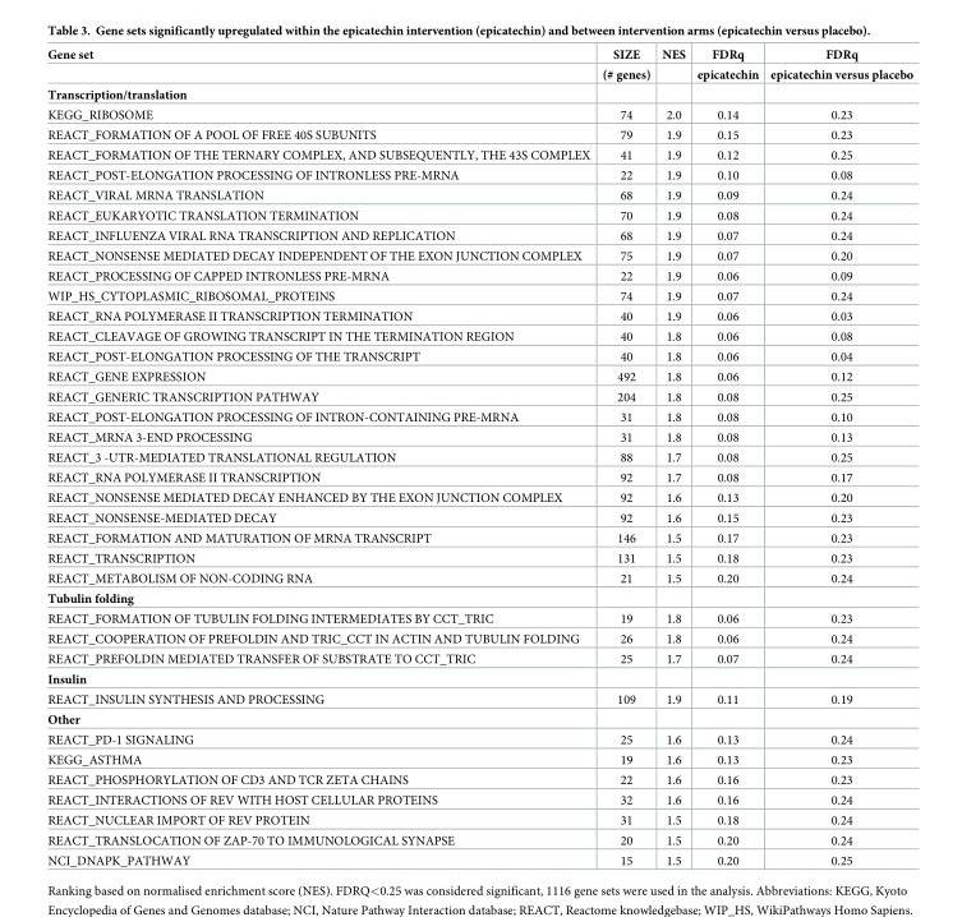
<table><thead><tr><td rowspan="2">Gene set</td><td rowspan="2">SIZE (# genes)</td><td rowspan="2">NES</td><td rowspan="2">FDRq epicatechin</td><td rowspan="2">FDRq epicatechin versus placebo</td></tr><tr></tr></thead><tbody><tr><td colspan="5">Transcription/translation</td></tr><tr><td>KEGG_RIBOSOME</td><td>74</td><td>2.0</td><td>0.14</td><td>0.23</td></tr><tr><td>REACT_FORMATION OF A POOL OF FREE 40S SUBUNITS</td><td>79</td><td>1.9</td><td>0.15</td><td>0.23</td></tr><tr><td>REACT_FORMATION OF THE TERNARY COMPLEX, AND SUBSEQUENTLY, THE 43S COMPLEX</td><td>41</td><td>1.9</td><td>0.12</td><td>0.25</td></tr><tr><td>REACT_POST-ELONGATION PROCESSING OF INTRONLESS PRE-MRNA</td><td>22</td><td>1.9</td><td>0.10</td><td>0.08</td></tr><tr><td>REACT_VIRAL MRNA TRANSLATION</td><td>68</td><td>1.9</td><td>0.09</td><td>0.24</td></tr><tr><td>REACT_EUKARYOTIC TRANSLATION TERMINATION</td><td>70</td><td>1.9</td><td>0.08</td><td>0.24</td></tr><tr><td>REACT_INFLUENZA VIRAL RNA TRANSCRIPTION AND REPLICATION</td><td>68</td><td>1.9</td><td>0.07</td><td>0.24</td></tr><tr><td>REACT_NONSENSE MEDIATED DECAY INDEPENDENT OF THE EXON JUNCTION COMPLEX</td><td>75</td><td>1.9</td><td>0.07</td><td>0.20</td></tr><tr><td>REACT_PROCESSING OF CAPPED INTRONLESS PRE-MRNA</td><td>22</td><td>1.9</td><td>0.06</td><td>0.09</td></tr><tr><td>WIP_HS_CYTOPLASMIC_RIBOSOMAL_PROTEINS</td><td>74</td><td>1.9</td><td>0.07</td><td>0.24</td></tr><tr><td>REACT_RNA POLYMERASE II TRANSCRIPTION TERMINATION</td><td>40</td><td>1.9</td><td>0.06</td><td>0.03</td></tr><tr><td>REACT_CLEAVAGE OF GROWING TRANSCRIPT IN THE TERMINATION REGION</td><td>40</td><td>1.8</td><td>0.06</td><td>0.08</td></tr><tr><td>REACT_POST-ELONGATION PROCESSING OF THE TRANSCRIPT</td><td>40</td><td>1.8</td><td>0.06</td><td>0.04</td></tr><tr><td>REACT_GENE EXPRESSION</td><td>492</td><td>1.8</td><td>0.06</td><td>0.12</td></tr><tr><td>REACT_GENERIC TRANSCRIPTION PATHWAY</td><td>204</td><td>1.8</td><td>0.08</td><td>0.25</td></tr><tr><td>REACT_POST-ELONGATION PROCESSING OF INTRON-CONTAINING PRE-MRNA</td><td>31</td><td>1.8</td><td>0.08</td><td>0.10</td></tr><tr><td>REACT_MRNA 3-END PROCESSING</td><td>31</td><td>1.8</td><td>0.08</td><td>0.13</td></tr><tr><td>REACT_3 -UTR-MEDIATED TRANSLATIONAL REGULATION</td><td>88</td><td>1.7</td><td>0.08</td><td>0.25</td></tr><tr><td>REACT_RNA POLYMERASE II TRANSCRIPTION</td><td>92</td><td>1.7</td><td>0.08</td><td>0.17</td></tr><tr><td>REACT_NONSENSE MEDIATED DECAY ENHANCED BY THE EXON JUNCTION COMPLEX</td><td>92</td><td>1.6</td><td>0.13</td><td>0.20</td></tr><tr><td>REACT_NONSENSE-MEDIATED DECAY</td><td>92</td><td>1.6</td><td>0.15</td><td>0.23</td></tr><tr><td>REACT_FORMATION AND MATURATION OF MRNA TRANSCRIPT</td><td>146</td><td>1.5</td><td>0.17</td><td>0.23</td></tr><tr><td>REACT_TRANSCRIPTION</td><td>131</td><td>1.5</td><td>0.18</td><td>0.23</td></tr><tr><td>REACT_METABOLISM OF NON-CODING RNA</td><td>21</td><td>1.5</td><td>0.20</td><td>0.24</td></tr><tr><td colspan="5">Tubulin folding</td></tr><tr><td>REACT_FORMATION OF TUBULIN FOLDING INTERMEDIATES BY CCT_TRIC</td><td>19</td><td>1.8</td><td>0.06</td><td>0.23</td></tr><tr><td>REACT_COOPERATION OF PREFOLDIN AND TRIC_CCT IN ACTIN AND TUBULIN FOLDING</td><td>26</td><td>1.8</td><td>0.06</td><td>0.24</td></tr><tr><td>REACT_PREFOLDIN MEDIATED TRANSFER OF SUBSTRATE TO CCT_TRIC</td><td>25</td><td>1.7</td><td>0.07</td><td>0.24</td></tr><tr><td colspan="5">Insulin</td></tr><tr><td>REACT_INSULIN SYNTHESIS AND PROCESSING</td><td>109</td><td>1.9</td><td>0.11</td><td>0.19</td></tr><tr><td colspan="5">Other</td></tr><tr><td>REACT_PD-1 SIGNALING</td><td>25</td><td>1.6</td><td>0.13</td><td>0.24</td></tr><tr><td>KEGG_ASTHMA</td><td>19</td><td>1.6</td><td>0.13</td><td>0.23</td></tr><tr><td>REACT_PHOSPHORYLATION OF CD3 AND TCR ZETA CHAINS</td><td>22</td><td>1.6</td><td>0.16</td><td>0.23</td></tr><tr><td>REACT_INTERACTIONS OF REV WITH HOST CELLULAR PROTEINS</td><td>32</td><td>1.6</td><td>0.16</td><td>0.24</td></tr><tr><td>REACT_NUCLEAR IMPORT OF REV PROTEIN</td><td>31</td><td>1.5</td><td>0.18</td><td>0.24</td></tr><tr><td>REACT_TRANSLOCATION OF ZAP-70 TO IMMUNOLOGICAL SYNAPSE</td><td>20</td><td>1.5</td><td>0.20</td><td>0.24</td></tr><tr><td>NCI_DNAPK_PATHWAY</td><td>15</td><td>1.5</td><td>0.20</td><td>0.25</td></tr></tbody></table>